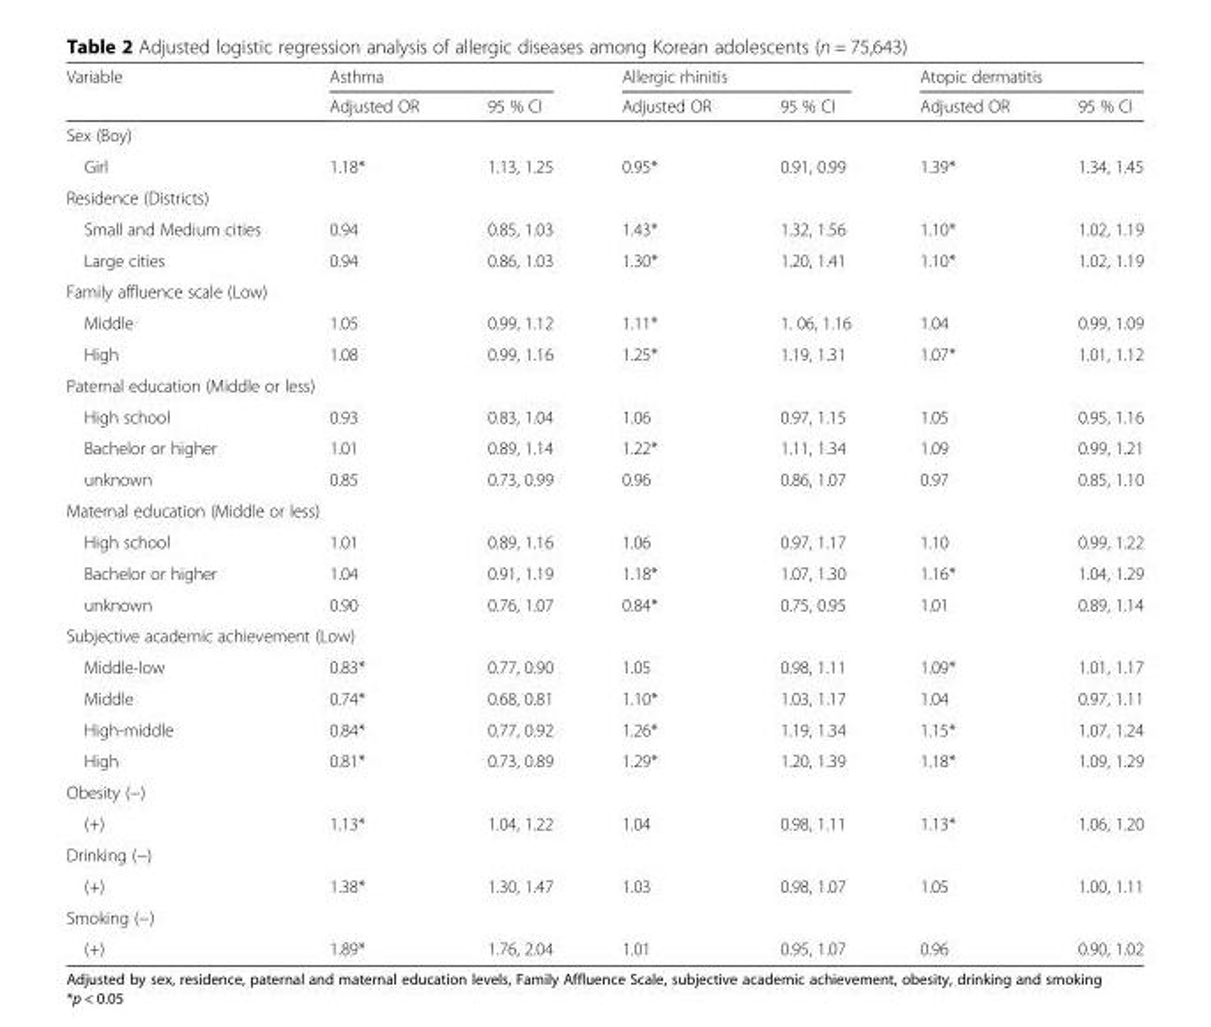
<table><thead><tr><td rowspan="2">Variable</td><td colspan="2">Asthma</td><td colspan="2">Allergic rhinitis</td><td colspan="2">Atopic dermatitis</td></tr><tr><td>Adjusted OR</td><td>95 % CI</td><td>Adjusted OR</td><td>95 % CI</td><td>Adjusted OR</td><td>95 % CI</td></tr></thead><tbody><tr><td colspan="7">Sex (Boy)</td></tr><tr><td>Girl</td><td>1.18*</td><td>1.13, 1.25</td><td>0.95*</td><td>0.91, 0.99</td><td>1.39*</td><td>1.34, 1.45</td></tr><tr><td colspan="7">Residence (Districts)</td></tr><tr><td>Small and Medium cities</td><td>0.94</td><td>0.85, 1.03</td><td>1.43*</td><td>1.32, 1.56</td><td>1.10*</td><td>1.02, 1.19</td></tr><tr><td>Large cities</td><td>0.94</td><td>0.86, 1.03</td><td>1.30*</td><td>1.20, 1.41</td><td>1.10*</td><td>1.02, 1.19</td></tr><tr><td colspan="7">Family affluence scale (Low)</td></tr><tr><td>Middle</td><td>1.05</td><td>0.99, 1.12</td><td>1.11*</td><td>1. 06, 1.16</td><td>1.04</td><td>0.99, 1.09</td></tr><tr><td>High</td><td>1.08</td><td>0.99, 1.16</td><td>1.25*</td><td>1.19, 1.31</td><td>1.07*</td><td>1.01, 1.12</td></tr><tr><td colspan="7">Paternal education (Middle or less)</td></tr><tr><td>High school</td><td>0.93</td><td>0.83, 1.04</td><td>1.06</td><td>0.97, 1.15</td><td>1.05</td><td>0.95, 1.16</td></tr><tr><td>Bachelor or higher</td><td>1.01</td><td>0.89, 1.14</td><td>1.22*</td><td>1.11, 1.34</td><td>1.09</td><td>0.99, 1.21</td></tr><tr><td>unknown</td><td>0.85</td><td>0.73, 0.99</td><td>0.96</td><td>0.86, 1.07</td><td>0.97</td><td>0.85, 1.10</td></tr><tr><td colspan="7">Maternal education (Middle or less)</td></tr><tr><td>High school</td><td>1.01</td><td>0.89, 1.16</td><td>1.06</td><td>0.97, 1.17</td><td>1.10</td><td>0.99, 1.22</td></tr><tr><td>Bachelor or higher</td><td>1.04</td><td>0.91, 1.19</td><td>1.18*</td><td>1.07, 1.30</td><td>1.16*</td><td>1.04, 1.29</td></tr><tr><td>unknown</td><td>0.90</td><td>0.76, 1.07</td><td>0.84*</td><td>0.75, 0.95</td><td>1.01</td><td>0.89, 1.14</td></tr><tr><td colspan="7">Subjective academic achievement (Low)</td></tr><tr><td>Middle-low</td><td>0.83*</td><td>0.77, 0.90</td><td>1.05</td><td>0.98, 1.11</td><td>1.09*</td><td>1.01, 1.17</td></tr><tr><td>Middle</td><td>0.74*</td><td>0.68, 0.81</td><td>1.10*</td><td>1.03, 1.17</td><td>1.04</td><td>0.97, 1.11</td></tr><tr><td>High-middle</td><td>0.84*</td><td>0.77, 0.92</td><td>1.26*</td><td>1.19, 1.34</td><td>1.15*</td><td>1.07, 1.24</td></tr><tr><td>High</td><td>0.81*</td><td>0.73, 0.89</td><td>1.29*</td><td>1.20, 1.39</td><td>1.18*</td><td>1.09, 1.29</td></tr><tr><td colspan="7">Obesity (−)</td></tr><tr><td>(+)</td><td>1.13*</td><td>1.04, 1.22</td><td>1.04</td><td>0.98, 1.11</td><td>1.13*</td><td>1.06, 1.20</td></tr><tr><td colspan="7">Drinking (−)</td></tr><tr><td>(+)</td><td>1.38*</td><td>1.30, 1.47</td><td>1.03</td><td>0.98, 1.07</td><td>1.05</td><td>1.00, 1.11</td></tr><tr><td colspan="7">Smoking (−)</td></tr><tr><td>(+)</td><td>1.89*</td><td>1.76, 2.04</td><td>1.01</td><td>0.95, 1.07</td><td>0.96</td><td>0.90, 1.02</td></tr></tbody></table>